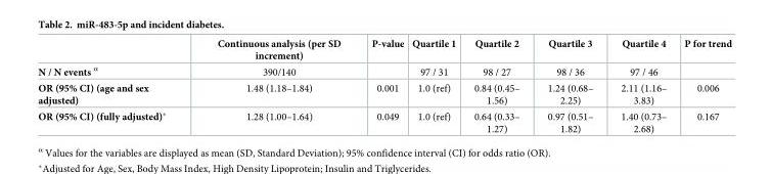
<table><thead><tr><td></td><td>Continuous analysis (per SD increment)</td><td>P-value</td><td>Quartile 1</td><td>Quartile 2</td><td>Quartile 3</td><td>Quartile 4</td><td>P for trend</td></tr></thead><tbody><tr><td>N / N events <sup>α</sup></td><td>390/140</td><td></td><td>97 / 31</td><td>98 / 27</td><td>98 / 36</td><td>97 / 46</td><td></td></tr><tr><td>OR (95% CI) (age and sex adjusted)</td><td>1.48 (1.18–1.84)</td><td>0.001</td><td>1.0 (ref)</td><td>0.84 (0.45– 1.56)</td><td>1.24 (0.68– 2.25)</td><td>2.11 (1.16– 3.83)</td><td>0.006</td></tr><tr><td>OR (95% CI) (fully adjusted)*</td><td>1.28 (1.00–1.64)</td><td>0.049</td><td>1.0 (ref)</td><td>0.64 (0.33– 1.27)</td><td>0.97 (0.51– 1.82)</td><td>1.40 (0.73– 2.68)</td><td>0.167</td></tr></tbody></table>